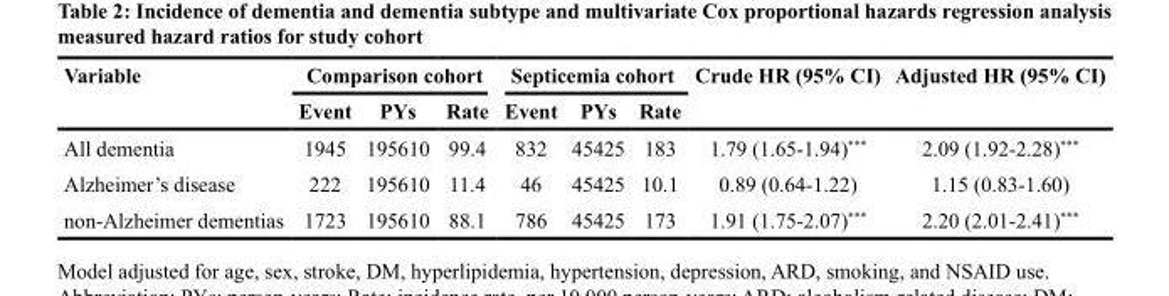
<table><thead><tr><td rowspan="2">Variable</td><td colspan="3">Comparison cohort</td><td colspan="3">Septicemia cohort</td><td rowspan="2">Crude HR (95% CI)</td><td rowspan="2">Adjusted HR (95% CI)</td></tr><tr><td>Event</td><td>PYs</td><td>Rate</td><td>Event</td><td>PYs</td><td>Rate</td></tr></thead><tbody><tr><td>All dementia</td><td>1945</td><td>195610</td><td>99.4</td><td>832</td><td>45425</td><td>183</td><td>1.79 (1.65-1.94)***</td><td>2.09 (1.92-2.28)***</td></tr><tr><td>Alzheimer’s disease</td><td>222</td><td>195610</td><td>11.4</td><td>46</td><td>45425</td><td>10.1</td><td>0.89 (0.64-1.22)</td><td>1.15 (0.83-1.60)</td></tr><tr><td>non-Alzheimer dementias</td><td>1723</td><td>195610</td><td>88.1</td><td>786</td><td>45425</td><td>173</td><td>1.91 (1.75-2.07)***</td><td>2.20 (2.01-2.41)***</td></tr></tbody></table>